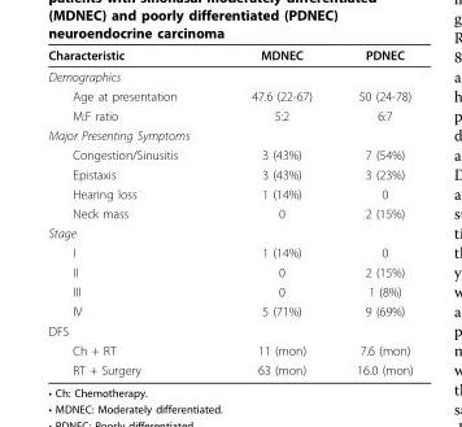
<table><thead><tr><td>Characteristic</td><td>MDNEC</td><td>PDNEC</td></tr></thead><tbody><tr><td colspan="3">Demographics</td></tr><tr><td>Age at presentation</td><td>47.6 (22-67)</td><td>50 (24-78)</td></tr><tr><td>M:F ratio</td><td>5:2</td><td>6:7</td></tr><tr><td colspan="3">Major Presenting Symptoms</td></tr><tr><td>Congestion/Sinusitis</td><td>3 (43%)</td><td>7 (54%)</td></tr><tr><td>Epistaxis</td><td>3 (43%)</td><td>3 (23%)</td></tr><tr><td>Hearing loss</td><td>1 (14%)</td><td>0</td></tr><tr><td>Neck mass</td><td>0</td><td>2 (15%)</td></tr><tr><td colspan="3">Stage</td></tr><tr><td>I</td><td>1 (14%)</td><td>0</td></tr><tr><td>II</td><td>0</td><td>2 (15%)</td></tr><tr><td>III</td><td>0</td><td>1 (8%)</td></tr><tr><td>IV</td><td>5 (71%)</td><td>9 (69%)</td></tr><tr><td colspan="3">DFS</td></tr><tr><td>Ch + RT</td><td>11 (mon)</td><td>7.6 (mon)</td></tr><tr><td>RT + Surgery</td><td>63 (mon)</td><td>16.0 (mon)</td></tr></tbody></table>